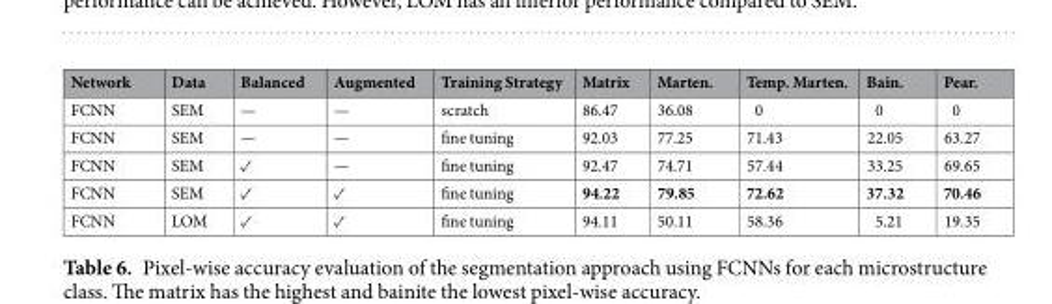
<table><thead><tr><td>Network</td><td>Data</td><td>Balanced</td><td>Augmented</td><td>Training Strategy</td><td>Matrix</td><td>Marten.</td><td>Temp. Marten.</td><td>Bain.</td><td>Pear.</td></tr></thead><tbody><tr><td>FCNN</td><td>SEM</td><td>—</td><td>—</td><td>scratch</td><td>86.47</td><td>36.08</td><td>0</td><td>0</td><td>0</td></tr><tr><td>FCNN</td><td>SEM</td><td>—</td><td>—</td><td>fine tuning</td><td>92.03</td><td>77.25</td><td>71.43</td><td>22.05</td><td>63.27</td></tr><tr><td>FCNN</td><td>SEM</td><td>✓</td><td>—</td><td>fine tuning</td><td>92.47</td><td>74.71</td><td>57.44</td><td>33.25</td><td>69.65</td></tr><tr><td>FCNN</td><td>SEM</td><td>✓</td><td>✓</td><td>fine tuning</td><td>94.22</td><td>79.85</td><td>72.62</td><td>37.32</td><td>70.46</td></tr><tr><td>FCNN</td><td>LOM</td><td>✓</td><td>✓</td><td>fine tuning</td><td>94.11</td><td>50.11</td><td>58.36</td><td>5.21</td><td>19.35</td></tr></tbody></table>